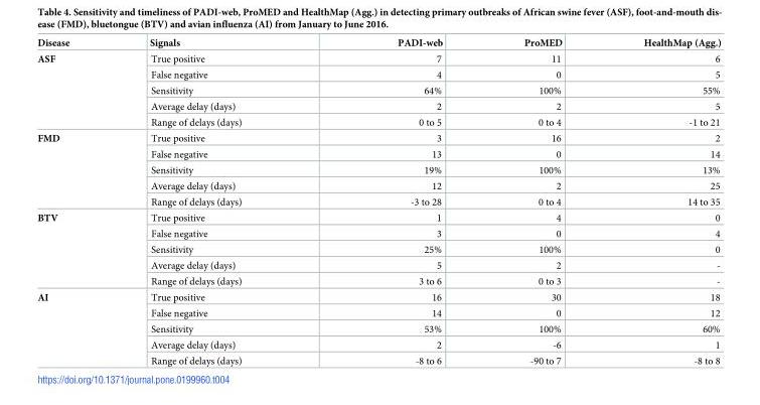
<table><thead><tr><td>Disease</td><td>Signals</td><td>PADI-web</td><td>ProMED</td><td>HealthMap (Agg.)</td></tr></thead><tbody><tr><td rowspan="5">ASF</td><td>True positive</td><td>7</td><td>11</td><td>6</td></tr><tr><td>False negative</td><td>4</td><td>0</td><td>5</td></tr><tr><td>Sensitivity</td><td>64%</td><td>100%</td><td>55%</td></tr><tr><td>Average delay (days)</td><td>2</td><td>2</td><td>5</td></tr><tr><td>Range of delays (days)</td><td>0 to 5</td><td>0 to 4</td><td>-1 to 21</td></tr><tr><td rowspan="5">FMD</td><td>True positive</td><td>3</td><td>16</td><td>2</td></tr><tr><td>False negative</td><td>13</td><td>0</td><td>14</td></tr><tr><td>Sensitivity</td><td>19%</td><td>100%</td><td>13%</td></tr><tr><td>Average delay (days)</td><td>12</td><td>2</td><td>25</td></tr><tr><td>Range of delays (days)</td><td>-3 to 28</td><td>0 to 4</td><td>14 to 35</td></tr><tr><td rowspan="5">BTV</td><td>True positive</td><td>1</td><td>4</td><td>0</td></tr><tr><td>False negative</td><td>3</td><td>0</td><td>4</td></tr><tr><td>Sensitivity</td><td>25%</td><td>100%</td><td>0</td></tr><tr><td>Average delay (days)</td><td>5</td><td>2</td><td>-</td></tr><tr><td>Range of delays (days)</td><td>3 to 6</td><td>0 to 3</td><td>-</td></tr><tr><td rowspan="5">AI</td><td>True positive</td><td>16</td><td>30</td><td>18</td></tr><tr><td>False negative</td><td>14</td><td>0</td><td>12</td></tr><tr><td>Sensitivity</td><td>53%</td><td>100%</td><td>60%</td></tr><tr><td>Average delay (days)</td><td>2</td><td>-6</td><td>1</td></tr><tr><td>Range of delays (days)</td><td>-8 to 6</td><td>-90 to 7</td><td>-8 to 8</td></tr></tbody></table>